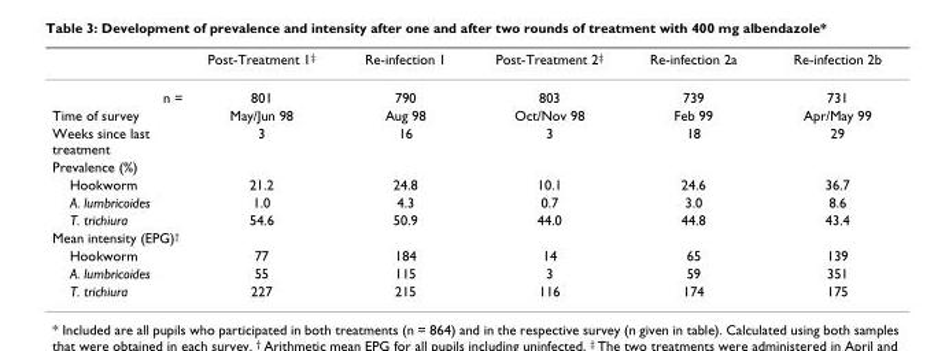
<table><thead><tr><td></td><td>Post-Treatment 1‡</td><td>Re-infection 1</td><td>Post-Treatment 2‡</td><td>Re-infection 2a</td><td>Re-infection 2b</td></tr></thead><tbody><tr><td>n =</td><td>801</td><td>790</td><td>803</td><td>739</td><td>731</td></tr><tr><td>Time of survey</td><td>May/Jun 98</td><td>Aug 98</td><td>Oct/Nov 98</td><td>Feb 99</td><td>Apr/May 99</td></tr><tr><td>Weeks since last treatment</td><td>3</td><td>16</td><td>3</td><td>18</td><td>29</td></tr><tr><td colspan="6">Prevalence (%)</td></tr><tr><td>Hookworm</td><td>21.2</td><td>24.8</td><td>10.1</td><td>24.6</td><td>36.7</td></tr><tr><td>A. lumbricoides</td><td>1.0</td><td>4.3</td><td>0.7</td><td>3.0</td><td>8.6</td></tr><tr><td>T. trichiura</td><td>54.6</td><td>50.9</td><td>44.0</td><td>44.8</td><td>43.4</td></tr><tr><td colspan="6">Mean intensity (EPG)†</td></tr><tr><td>Hookworm</td><td>77</td><td>184</td><td>14</td><td>65</td><td>139</td></tr><tr><td>A. lumbricoides</td><td>55</td><td>115</td><td>3</td><td>59</td><td>351</td></tr><tr><td>T. trichiura</td><td>227</td><td>215</td><td>116</td><td>174</td><td>175</td></tr></tbody></table>